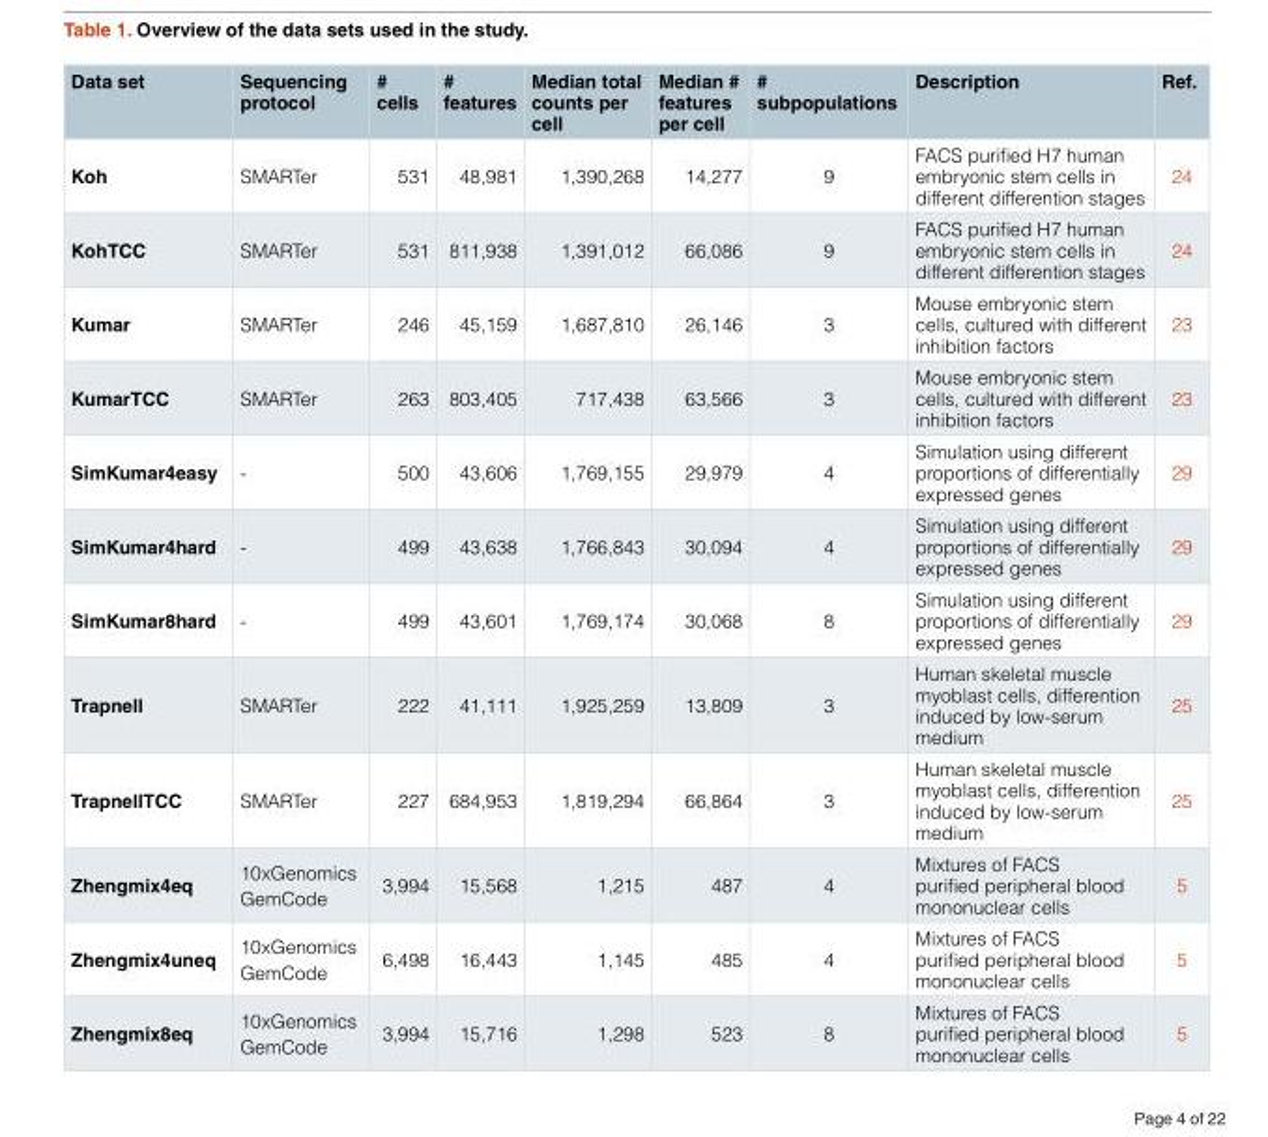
<table><thead><tr><td>Data set</td><td>Sequencing protocol</td><td># cells</td><td># features</td><td>Median total counts per cell</td><td>Median # features per cell</td><td># subpopulations</td><td>Description</td><td>Ref.</td></tr></thead><tbody><tr><td>Koh</td><td>SMARTer</td><td>531</td><td>48,981</td><td>1,390,268</td><td>14,277</td><td>9</td><td>FACS purified H7 human embryonic stem cells in different differention stages</td><td>24</td></tr><tr><td>KohTCC</td><td>SMARTer</td><td>531</td><td>811,938</td><td>1,391,012</td><td>66,086</td><td>9</td><td>FACS purified H7 human embryonic stem cells in different differention stages</td><td>24</td></tr><tr><td>Kumar</td><td>SMARTer</td><td>246</td><td>45,159</td><td>1,687,810</td><td>26,146</td><td>3</td><td>Mouse embryonic stem cells, cultured with different inhibition factors</td><td>23</td></tr><tr><td>KumarTCC</td><td>SMARTer</td><td>263</td><td>803,405</td><td>717,438</td><td>63,566</td><td>3</td><td>Mouse embryonic stem cells, cultured with different inhibition factors</td><td>23</td></tr><tr><td>SimKumar4easy</td><td>-</td><td>500</td><td>43,606</td><td>1,769,155</td><td>29,979</td><td>4</td><td>Simulation using different proportions of differentially expressed genes</td><td>29</td></tr><tr><td>SimKumar4hard</td><td>-</td><td>499</td><td>43,638</td><td>1,766,843</td><td>30,094</td><td>4</td><td>Simulation using different proportions of differentially expressed genes</td><td>29</td></tr><tr><td>SimKumar8hard</td><td>-</td><td>499</td><td>43,601</td><td>1,769,174</td><td>30,068</td><td>8</td><td>Simulation using different proportions of differentially expressed genes</td><td>29</td></tr><tr><td>Trapnell</td><td>SMARTer</td><td>222</td><td>41,111</td><td>1,925,259</td><td>13,809</td><td>3</td><td>Human skeletal muscle myoblast cells, differention induced by low-serum medium</td><td>25</td></tr><tr><td>TrapnellTCC</td><td>SMARTer</td><td>227</td><td>684,953</td><td>1,819,294</td><td>66,864</td><td>3</td><td>Human skeletal muscle myoblast cells, differention induced by low-serum medium</td><td>25</td></tr><tr><td>Zhengmix4eq</td><td>10xGenomics GemCode</td><td>3,994</td><td>15,568</td><td>1,215</td><td>487</td><td>4</td><td>Mixtures of FACS purified peripheral blood mononuclear cells</td><td>5</td></tr><tr><td>Zhengmix4uneq</td><td>10xGenomics GemCode</td><td>6,498</td><td>16,443</td><td>1,145</td><td>485</td><td>4</td><td>Mixtures of FACS purified peripheral blood mononuclear cells</td><td>5</td></tr><tr><td>Zhengmix8eq</td><td>10xGenomics GemCode</td><td>3,994</td><td>15,716</td><td>1,298</td><td>523</td><td>8</td><td>Mixtures of FACS purified peripheral blood mononuclear cells</td><td>5</td></tr></tbody></table>